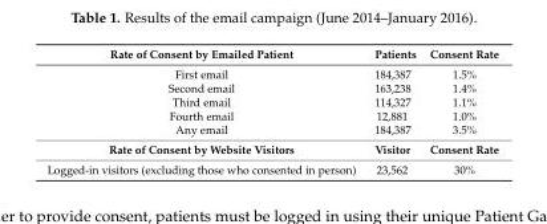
<table><thead><tr><td>Rate of Consent by Emailed Patient</td><td>Patients</td><td>Consent Rate</td></tr></thead><tbody><tr><td>First email</td><td>184,387</td><td>1.5%</td></tr><tr><td>Second email</td><td>163,238</td><td>1.4%</td></tr><tr><td>Third email</td><td>114,327</td><td>1.1%</td></tr><tr><td>Fourth email</td><td>12,881</td><td>1.0%</td></tr><tr><td>Any email</td><td>184,387</td><td>3.5%</td></tr><tr><td>Rate of Consent by Website Visitors</td><td>Visitor</td><td>Consent Rate</td></tr><tr><td>Logged-in visitors (excluding those who consented in person)</td><td>23,562</td><td>30%</td></tr></tbody></table>